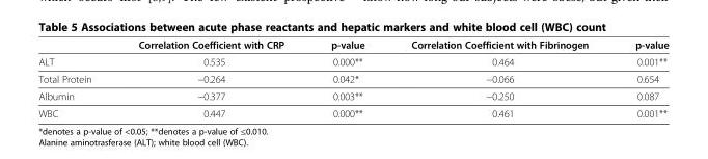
<table><thead><tr><td></td><td>Correlation Coefficient with CRP</td><td>p-value</td><td>Correlation Coefficient with Fibrinogen</td><td>p-value</td></tr></thead><tbody><tr><td>ALT</td><td>0.535</td><td>0.000**</td><td>0.464</td><td>0.001**</td></tr><tr><td>Total Protein</td><td>−0.264</td><td>0.042*</td><td>−0.066</td><td>0.654</td></tr><tr><td>Albumin</td><td>−0.377</td><td>0.003**</td><td>−0.250</td><td>0.087</td></tr><tr><td>WBC</td><td>0.447</td><td>0.000**</td><td>0.461</td><td>0.001**</td></tr></tbody></table>